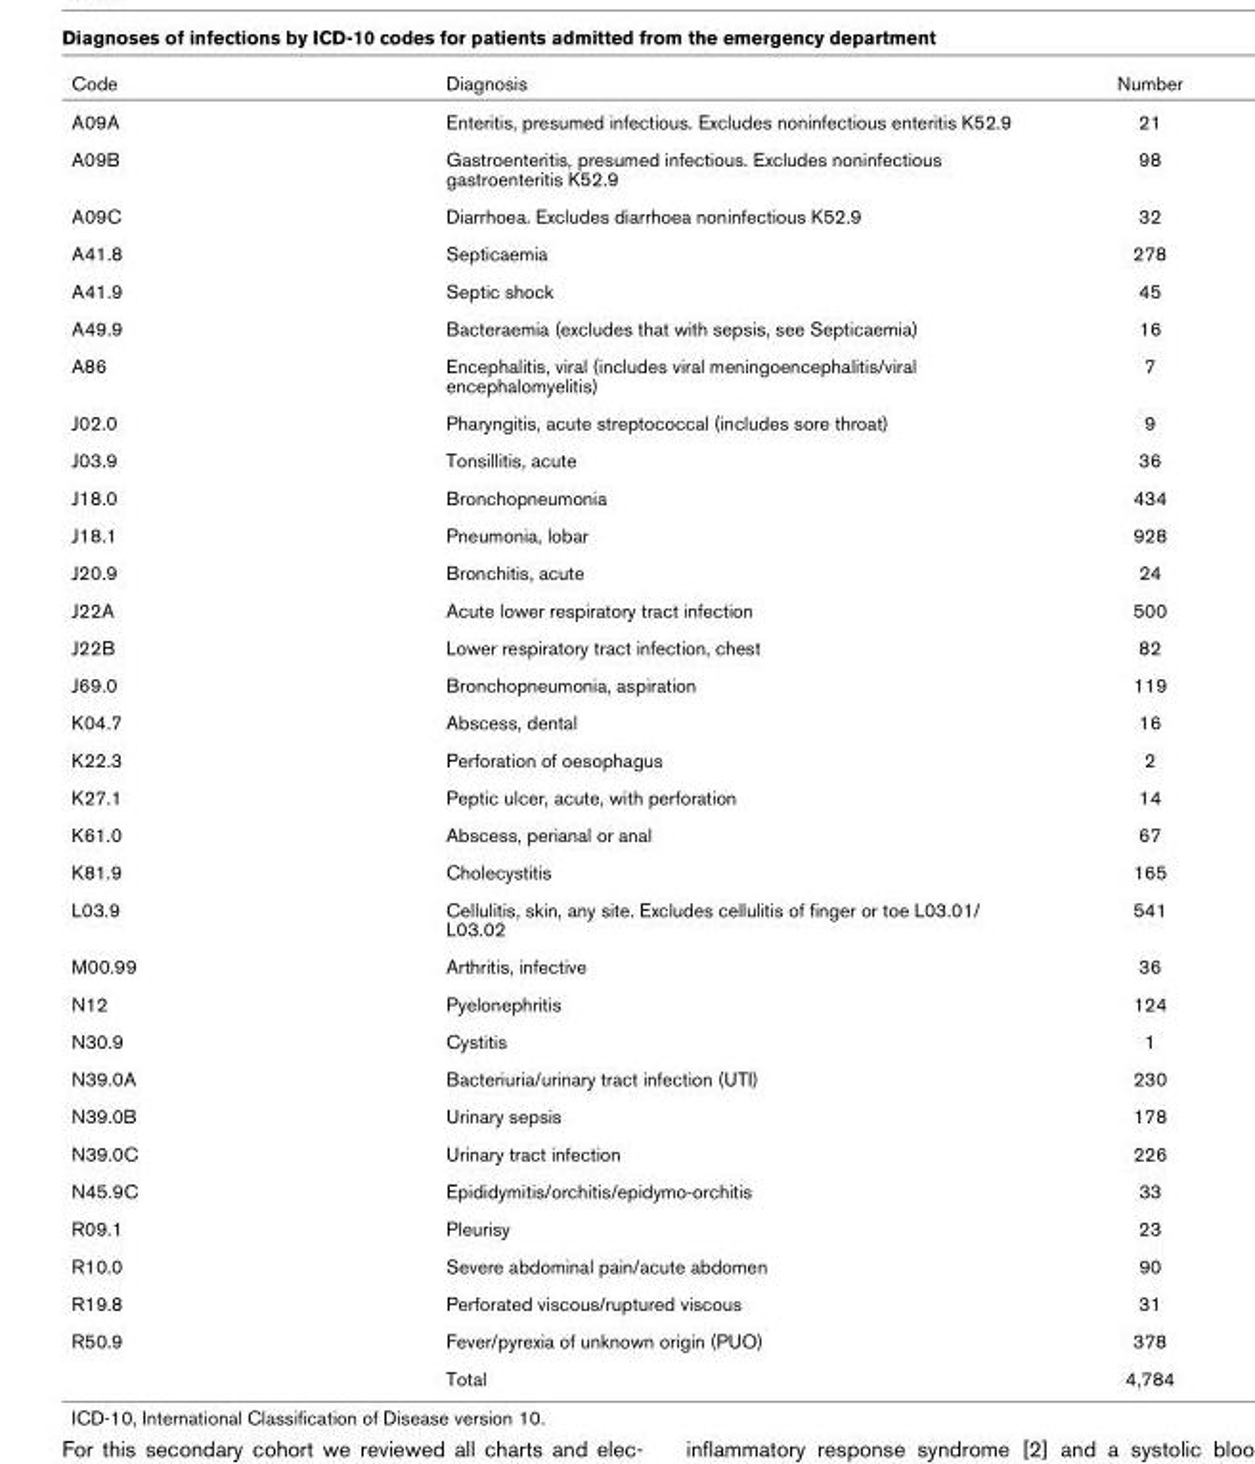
<table><thead><tr><td>Code</td><td>Diagnosis</td><td>Number</td></tr></thead><tbody><tr><td>A09A</td><td>Enteritis, presumed infectious. Excludes noninfectious enteritis K52.9</td><td>21</td></tr><tr><td>A09B</td><td>Gastroenteritis, presumed infectious. Excludes noninfectious gastroenteritis K52.9</td><td>98</td></tr><tr><td>A09C</td><td>Diarrhoea. Excludes diarrhoea noninfectious K52.9</td><td>32</td></tr><tr><td>A41.8</td><td>Septicaemia</td><td>278</td></tr><tr><td>A41.9</td><td>Septic shock</td><td>45</td></tr><tr><td>A49.9</td><td>Bacteraemia (excludes that with sepsis, see Septicaemia)</td><td>16</td></tr><tr><td>A86</td><td>Encephalitis, viral (includes viral meningoencephalitis/viral encephalomyelitis)</td><td>7</td></tr><tr><td>J02.0</td><td>Pharyngitis, acute streptococcal (includes sore throat)</td><td>9</td></tr><tr><td>J03.9</td><td>Tonsillitis, acute</td><td>36</td></tr><tr><td>J18.0</td><td>Bronchopneumonia</td><td>434</td></tr><tr><td>J18.1</td><td>Pneumonia, lobar</td><td>928</td></tr><tr><td>J20.9</td><td>Bronchitis, acute</td><td>24</td></tr><tr><td>J22A</td><td>Acute lower respiratory tract infection</td><td>500</td></tr><tr><td>J22B</td><td>Lower respiratory tract infection, chest</td><td>82</td></tr><tr><td>J69.0</td><td>Bronchopneumonia, aspiration</td><td>119</td></tr><tr><td>K04.7</td><td>Abscess, dental</td><td>16</td></tr><tr><td>K22.3</td><td>Perforation of oesophagus</td><td>2</td></tr><tr><td>K27.1</td><td>Peptic ulcer, acute, with perforation</td><td>14</td></tr><tr><td>K61.0</td><td>Abscess, perianal or anal</td><td>67</td></tr><tr><td>K81.9</td><td>Cholecystitis</td><td>165</td></tr><tr><td>L03.9</td><td>Cellulitis, skin, any site. Excludes cellulitis of finger or toe L03.01/ L03.02</td><td>541</td></tr><tr><td>M00.99</td><td>Arthritis, infective</td><td>36</td></tr><tr><td>N12</td><td>Pyelonephritis</td><td>124</td></tr><tr><td>N30.9</td><td>Cystitis</td><td>1</td></tr><tr><td>N39.0A</td><td>Bacteriuria/urinary tract infection (UTI)</td><td>230</td></tr><tr><td>N39.0B</td><td>Urinary sepsis</td><td>178</td></tr><tr><td>N39.0C</td><td>Urinary tract infection</td><td>226</td></tr><tr><td>N45.9C</td><td>Epididymitis/orchitis/epidymo-orchitis</td><td>33</td></tr><tr><td>R09.1</td><td>Pleurisy</td><td>23</td></tr><tr><td>R10.0</td><td>Severe abdominal pain/acute abdomen</td><td>90</td></tr><tr><td>R19.8</td><td>Perforated viscous/ruptured viscous</td><td>31</td></tr><tr><td rowspan="2">R50.9</td><td>Fever/pyrexia of unknown origin (PUO)</td><td>378</td></tr><tr><td>Total</td><td>4,784</td></tr></tbody></table>